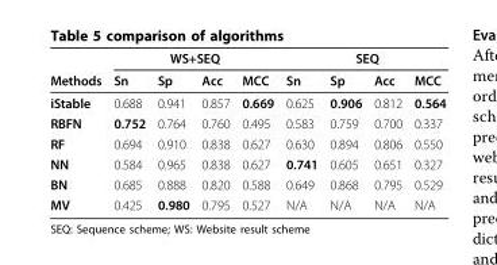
<table><thead><tr><td rowspan="2">Methods</td><td colspan="4">WS+SEQ</td><td colspan="4">SEQ</td></tr><tr><td>Sn</td><td>Sp</td><td>Acc</td><td>MCC</td><td>Sn</td><td>Sp</td><td>Acc</td><td>MCC</td></tr></thead><tbody><tr><td>iStable</td><td>0.688</td><td>0.941</td><td>0.857</td><td>0.669</td><td>0.625</td><td>0.906</td><td>0.812</td><td>0.564</td></tr><tr><td>RBFN</td><td>0.752</td><td>0.764</td><td>0.760</td><td>0.495</td><td>0.583</td><td>0.759</td><td>0.700</td><td>0.337</td></tr><tr><td>RF</td><td>0.694</td><td>0.910</td><td>0.838</td><td>0.627</td><td>0.630</td><td>0.894</td><td>0.806</td><td>0.550</td></tr><tr><td>NN</td><td>0.584</td><td>0.965</td><td>0.838</td><td>0.627</td><td>0.741</td><td>0.605</td><td>0.651</td><td>0.327</td></tr><tr><td>BN</td><td>0.685</td><td>0.888</td><td>0.820</td><td>0.588</td><td>0.649</td><td>0.868</td><td>0.795</td><td>0.529</td></tr><tr><td>MV</td><td>0.425</td><td>0.980</td><td>0.795</td><td>0.527</td><td>N/A</td><td>N/A</td><td>N/A</td><td>N/A</td></tr></tbody></table>